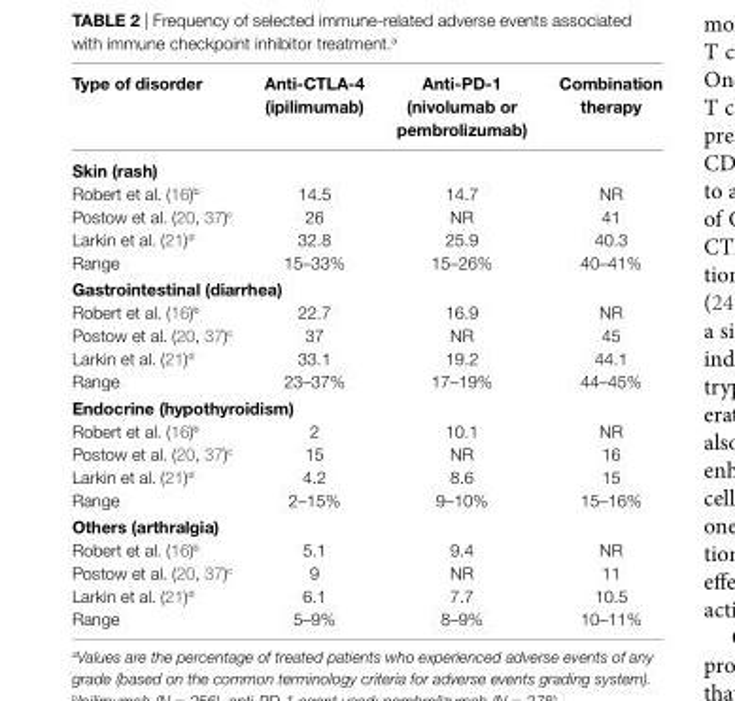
<table><thead><tr><td>type of disorder</td><td>Anti-ctlA-4 (ipilimumab)</td><td>Anti-PD-1 (nivolumab or pembrolizumab)</td><td>combination therapy</td></tr></thead><tbody><tr><td colspan="4">skin (rash)</td></tr><tr><td>Robert et al. (16)<sup>b</sup></td><td>14.5</td><td>14.7</td><td>NR</td></tr><tr><td>Postow et al. (20, 37)<sup>c</sup></td><td>26</td><td>NR</td><td>41</td></tr><tr><td>Larkin et al. (21)<sup>d</sup></td><td>32.8</td><td>25.9</td><td>40.3</td></tr><tr><td>Range</td><td>15–33%</td><td>15–26%</td><td>40–41%</td></tr><tr><td colspan="4">Gastrointestinal (diarrhea)</td></tr><tr><td>Robert et al. (16)<sup>b</sup></td><td>22.7</td><td>16.9</td><td>NR</td></tr><tr><td>Postow et al. (20, 37)<sup>c</sup></td><td>37</td><td>NR</td><td>45</td></tr><tr><td>Larkin et al. (21)<sup>d</sup></td><td>33.1</td><td>19.2</td><td>44.1</td></tr><tr><td>Range</td><td>23–37%</td><td>17–19%</td><td>44–45%</td></tr><tr><td colspan="4">endocrine (hypothyroidism)</td></tr><tr><td>Robert et al. (16)<sup>b</sup></td><td>2</td><td>10.1</td><td>NR</td></tr><tr><td>Postow et al. (20, 37)<sup>c</sup></td><td>15</td><td>NR</td><td>16</td></tr><tr><td>Larkin et al. (21)<sup>d</sup></td><td>4.2</td><td>8.6</td><td>15</td></tr><tr><td>Range</td><td>2–15%</td><td>9–10%</td><td>15–16%</td></tr><tr><td colspan="4">Others (arthralgia)</td></tr><tr><td>Robert et al. (16)<sup>b</sup></td><td>5.1</td><td>9.4</td><td>NR</td></tr><tr><td>Postow et al. (20, 37)<sup>c</sup></td><td>9</td><td>NR</td><td>11</td></tr><tr><td>Larkin et al. (21)<sup>d</sup></td><td>6.1</td><td>7.7</td><td>10.5</td></tr><tr><td>Range</td><td>5–9%</td><td>8–9%</td><td>10–11%</td></tr></tbody></table>